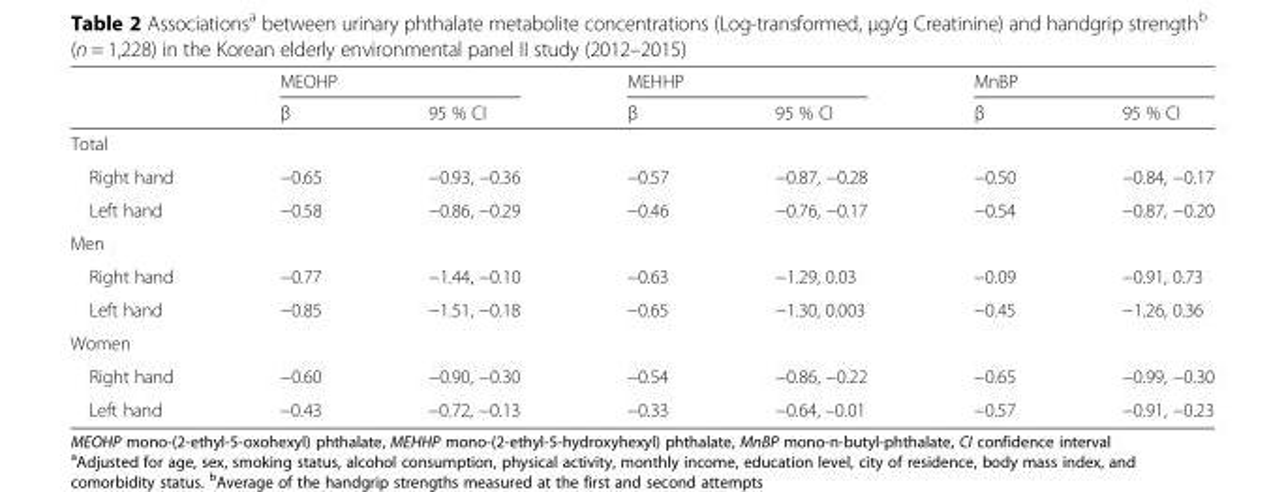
<table><thead><tr><td rowspan="2"></td><td colspan="2">MEOHP</td><td colspan="2">MEHHP</td><td colspan="2">MnBP</td></tr><tr><td>β</td><td>95 % CI</td><td>β</td><td>95 % CI</td><td>β</td><td>95 % CI</td></tr></thead><tbody><tr><td colspan="7">Total</td></tr><tr><td>Right hand</td><td>−0.65</td><td>−0.93, −0.36</td><td>−0.57</td><td>−0.87, −0.28</td><td>−0.50</td><td>−0.84, −0.17</td></tr><tr><td>Left hand</td><td>−0.58</td><td>−0.86, −0.29</td><td>−0.46</td><td>−0.76, −0.17</td><td>−0.54</td><td>−0.87, −0.20</td></tr><tr><td colspan="7">Men</td></tr><tr><td>Right hand</td><td>−0.77</td><td>−1.44, −0.10</td><td>−0.63</td><td>−1.29, 0.03</td><td>−0.09</td><td>−0.91, 0.73</td></tr><tr><td>Left hand</td><td>−0.85</td><td>−1.51, −0.18</td><td>−0.65</td><td>−1.30, 0.003</td><td>−0.45</td><td>−1.26, 0.36</td></tr><tr><td colspan="7">Women</td></tr><tr><td>Right hand</td><td>−0.60</td><td>−0.90, −0.30</td><td>−0.54</td><td>−0.86, −0.22</td><td>−0.65</td><td>−0.99, −0.30</td></tr><tr><td>Left hand</td><td>−0.43</td><td>−0.72, −0.13</td><td>−0.33</td><td>−0.64, –0.01</td><td>−0.57</td><td>−0.91, −0.23</td></tr></tbody></table>